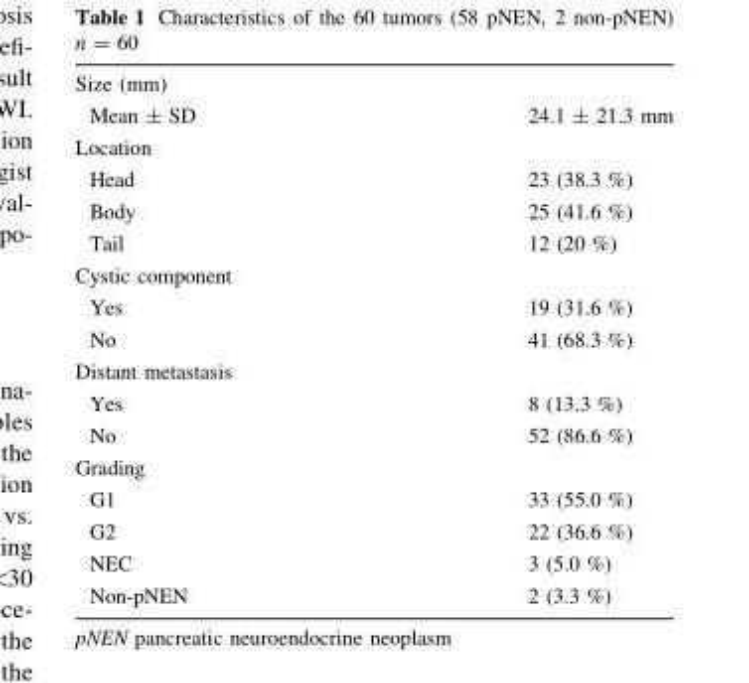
<table><tbody><tr><td colspan="2">Size (mm)</td></tr><tr><td>Mean ± SD</td><td>24.1 ± 21.3 mm</td></tr><tr><td colspan="2">Location</td></tr><tr><td>Head</td><td>23 (38.3 %)</td></tr><tr><td>Body</td><td>25 (41.6 %)</td></tr><tr><td>Tail</td><td>12 (20 %)</td></tr><tr><td colspan="2">Cystic component</td></tr><tr><td>Yes</td><td>19 (31.6 %)</td></tr><tr><td>No</td><td>41 (68.3 %)</td></tr><tr><td colspan="2">Distant metastasis</td></tr><tr><td>Yes</td><td>8 (13.3 %)</td></tr><tr><td>No</td><td>52 (86.6 %)</td></tr><tr><td colspan="2">Grading</td></tr><tr><td>G1</td><td>33 (55.0 %)</td></tr><tr><td>G2</td><td>22 (36.6 %)</td></tr><tr><td>NEC</td><td>3 (5.0 %)</td></tr><tr><td>Non-pNEN</td><td>2 (3.3 %)</td></tr></tbody></table>